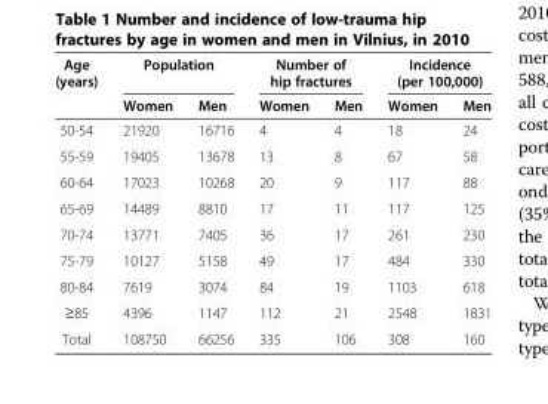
<table><thead><tr><td rowspan="2">Age (years)</td><td colspan="2">Population</td><td colspan="2">Number of hip fractures</td><td colspan="2">Incidence (per 100,000)</td></tr><tr><td>Women</td><td>Men</td><td>Women</td><td>Men</td><td>Women</td><td>Men</td></tr></thead><tbody><tr><td>50-54</td><td>21920</td><td>16716</td><td>4</td><td>4</td><td>18</td><td>24</td></tr><tr><td>55-59</td><td>19405</td><td>13678</td><td>13</td><td>8</td><td>67</td><td>58</td></tr><tr><td>60-64</td><td>17023</td><td>10268</td><td>20</td><td>9</td><td>117</td><td>88</td></tr><tr><td>65-69</td><td>14489</td><td>8810</td><td>17</td><td>11</td><td>117</td><td>125</td></tr><tr><td>70-74</td><td>13771</td><td>7405</td><td>36</td><td>17</td><td>261</td><td>230</td></tr><tr><td>75-79</td><td>10127</td><td>5158</td><td>49</td><td>17</td><td>484</td><td>330</td></tr><tr><td>80-84</td><td>7619</td><td>3074</td><td>84</td><td>19</td><td>1103</td><td>618</td></tr><tr><td>≥85</td><td>4396</td><td>1147</td><td>112</td><td>21</td><td>2548</td><td>1831</td></tr><tr><td>Total</td><td>108750</td><td>66256</td><td>335</td><td>106</td><td>308</td><td>160</td></tr></tbody></table>